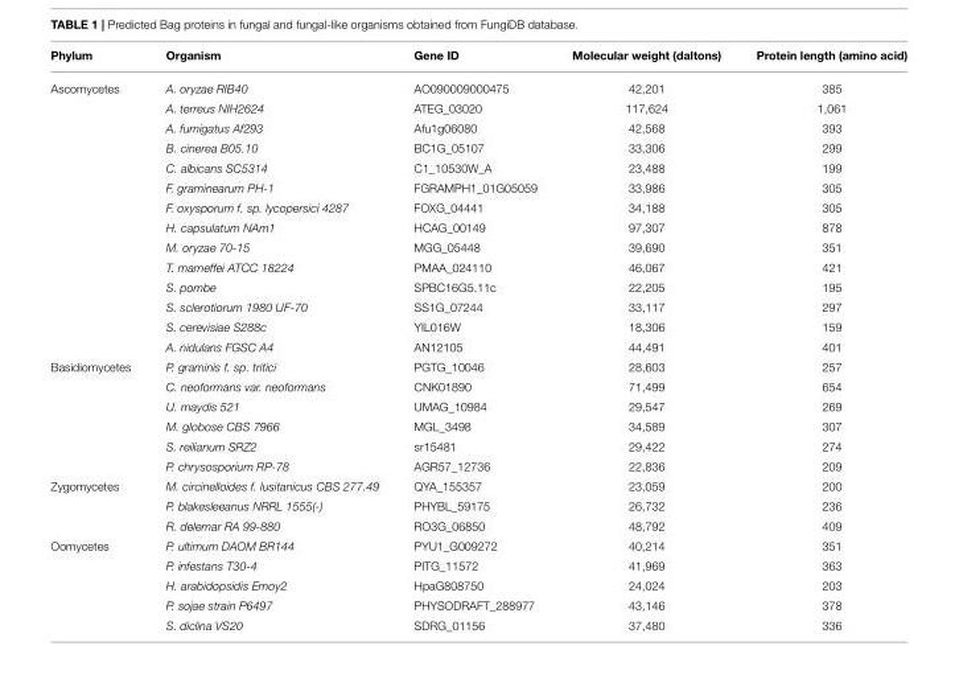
<table><thead><tr><td>Phylum</td><td>Organism</td><td>Gene ID</td><td>Molecular weight (daltons)</td><td>Protein length (amino acid)</td></tr></thead><tbody><tr><td rowspan="14">Ascomycetes</td><td>A. oryzae RIB40</td><td>AO090009000475</td><td>42,201</td><td>385</td></tr><tr><td>A. terreus NIH2624</td><td>ATEG_03020</td><td>117,624</td><td>1,061</td></tr><tr><td>A. fumigatus Af293</td><td>Afu1g06080</td><td>42,568</td><td>393</td></tr><tr><td>B. cinerea B05.10</td><td>BC1G_05107</td><td>33,306</td><td>299</td></tr><tr><td>C. albicans SC5314</td><td>C1_10530W_A</td><td>23,488</td><td>199</td></tr><tr><td>F. graminearum PH-1</td><td>FGRAMPH1_01G05059</td><td>33,986</td><td>305</td></tr><tr><td>F. oxysporum f. sp. lycopersici 4287</td><td>FOXG_04441</td><td>34,188</td><td>305</td></tr><tr><td>H. capsulatum NAm1</td><td>HCAG_00149</td><td>97,307</td><td>878</td></tr><tr><td>M. oryzae 70-15</td><td>MGG_05448</td><td>39,690</td><td>351</td></tr><tr><td>T. marneffei ATCC 18224</td><td>PMAA_024110</td><td>46,067</td><td>421</td></tr><tr><td>S. pombe</td><td>SPBC16G5.11c</td><td>22,205</td><td>195</td></tr><tr><td>S. sclerotiorum 1980 UF-70</td><td>SS1G_07244</td><td>33,117</td><td>297</td></tr><tr><td>S. cerevisiae S288c</td><td>YIL016W</td><td>18,306</td><td>159</td></tr><tr><td>A. nidulans FGSC A4</td><td>AN12105</td><td>44,491</td><td>401</td></tr><tr><td rowspan="6">Basidiomycetes</td><td>P. graminis f. sp. tritici</td><td>PGTG_10046</td><td>28,603</td><td>257</td></tr><tr><td>C. neoformans var. neoformans</td><td>CNK01890</td><td>71,499</td><td>654</td></tr><tr><td>U. maydis 521</td><td>UMAG_10984</td><td>29,547</td><td>269</td></tr><tr><td>M. globose CBS 7966</td><td>MGL_3498</td><td>34,589</td><td>307</td></tr><tr><td>S. reilianum SRZ2</td><td>sr15481</td><td>29,422</td><td>274</td></tr><tr><td>P. chrysosporium RP-78</td><td>AGR57_12736</td><td>22,836</td><td>209</td></tr><tr><td rowspan="3">Zygomycetes</td><td>M. circinelloides f. lusitanicus CBS 277.49</td><td>QYA_155357</td><td>23,059</td><td>200</td></tr><tr><td>P. blakesleeanus NRRL 1555(-)</td><td>PHYBL_59175</td><td>26,732</td><td>236</td></tr><tr><td>R. delemar RA 99-880</td><td>RO3G_06850</td><td>48,792</td><td>409</td></tr><tr><td rowspan="5">Oomycetes</td><td>P. ultimum DAOM BR144</td><td>PYU1_G009272</td><td>40,214</td><td>351</td></tr><tr><td>P. infestans T30-4</td><td>PITG_11572</td><td>41,969</td><td>363</td></tr><tr><td>H. arabidopsidis Emoy2</td><td>HpaG808750</td><td>24,024</td><td>203</td></tr><tr><td>P. sojae strain P6497</td><td>PHYSODRAFT_288977</td><td>43,146</td><td>378</td></tr><tr><td>S. diclina VS20</td><td>SDRG_01156</td><td>37,480</td><td>336</td></tr></tbody></table>